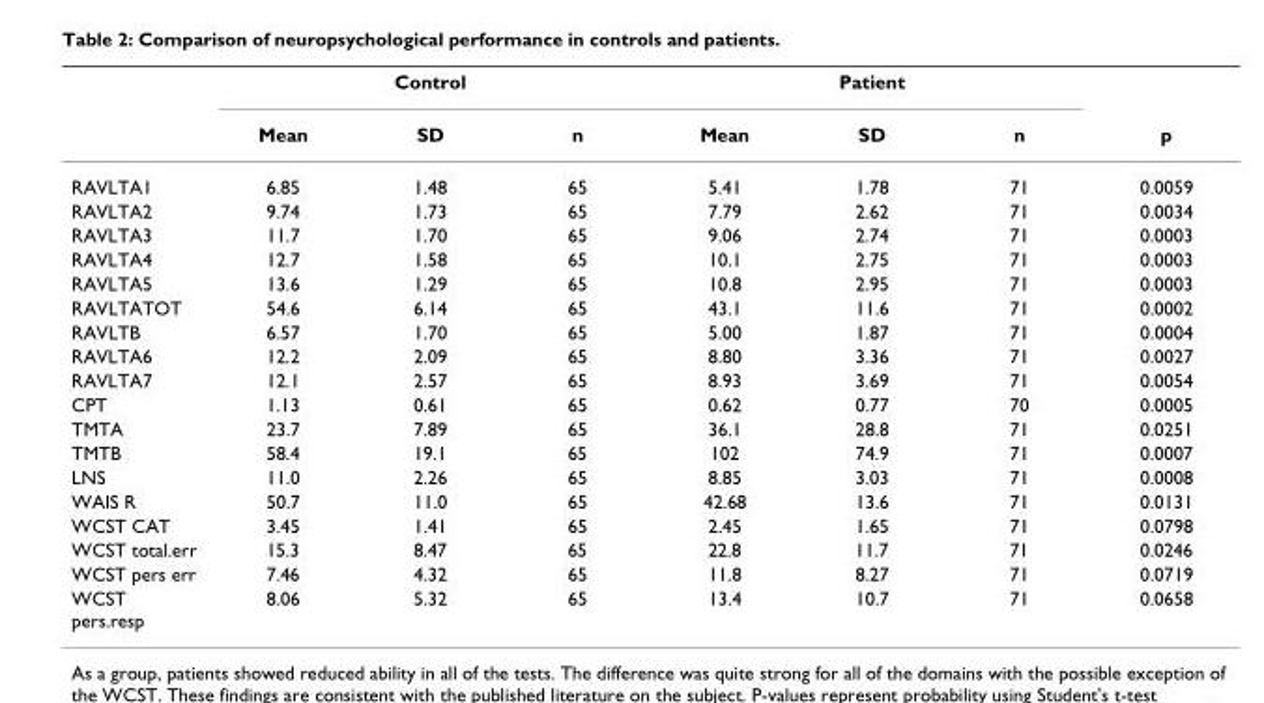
<table><thead><tr><td rowspan="2"></td><td colspan="3">Control</td><td colspan="3">Patient</td><td rowspan="2">p</td></tr><tr><td>Mean</td><td>SD</td><td>n</td><td>Mean</td><td>SD</td><td>n</td></tr></thead><tbody><tr><td>RAVLTA1</td><td>6.85</td><td>1.48</td><td>65</td><td>5.41</td><td>1.78</td><td>71</td><td>0.0059</td></tr><tr><td>RAVLTA2</td><td>9.74</td><td>1.73</td><td>65</td><td>7.79</td><td>2.62</td><td>71</td><td>0.0034</td></tr><tr><td>RAVLTA3</td><td>11.7</td><td>1.70</td><td>65</td><td>9.06</td><td>2.74</td><td>71</td><td>0.0003</td></tr><tr><td>RAVLTA4</td><td>12.7</td><td>1.58</td><td>65</td><td>10.1</td><td>2.75</td><td>71</td><td>0.0003</td></tr><tr><td>RAVLTA5</td><td>13.6</td><td>1.29</td><td>65</td><td>10.8</td><td>2.95</td><td>71</td><td>0.0003</td></tr><tr><td>RAVLTATOT</td><td>54.6</td><td>6.14</td><td>65</td><td>43.1</td><td>11.6</td><td>71</td><td>0.0002</td></tr><tr><td>RAVLTB</td><td>6.57</td><td>1.70</td><td>65</td><td>5.00</td><td>1.87</td><td>71</td><td>0.0004</td></tr><tr><td>RAVLTA6</td><td>12.2</td><td>2.09</td><td>65</td><td>8.80</td><td>3.36</td><td>71</td><td>0.0027</td></tr><tr><td>RAVLTA7</td><td>12.1</td><td>2.57</td><td>65</td><td>8.93</td><td>3.69</td><td>71</td><td>0.0054</td></tr><tr><td>CPT</td><td>1.13</td><td>0.61</td><td>65</td><td>0.62</td><td>0.77</td><td>70</td><td>0.0005</td></tr><tr><td>TMTA</td><td>23.7</td><td>7.89</td><td>65</td><td>36.1</td><td>28.8</td><td>71</td><td>0.0251</td></tr><tr><td>TMTB</td><td>58.4</td><td>19.1</td><td>65</td><td>102</td><td>74.9</td><td>71</td><td>0.0007</td></tr><tr><td>LNS</td><td>11.0</td><td>2.26</td><td>65</td><td>8.85</td><td>3.03</td><td>71</td><td>0.0008</td></tr><tr><td>WAIS R</td><td>50.7</td><td>11.0</td><td>65</td><td>42.68</td><td>13.6</td><td>71</td><td>0.0131</td></tr><tr><td>WCST CAT</td><td>3.45</td><td>1.41</td><td>65</td><td>2.45</td><td>1.65</td><td>71</td><td>0.0798</td></tr><tr><td>WCST total.err</td><td>15.3</td><td>8.47</td><td>65</td><td>22.8</td><td>11.7</td><td>71</td><td>0.0246</td></tr><tr><td>WCST pers err</td><td>7.46</td><td>4.32</td><td>65</td><td>11.8</td><td>8.27</td><td>71</td><td>0.0719</td></tr><tr><td>WCST pers.resp</td><td>8.06</td><td>5.32</td><td>65</td><td>13.4</td><td>10.7</td><td>71</td><td>0.0658</td></tr></tbody></table>